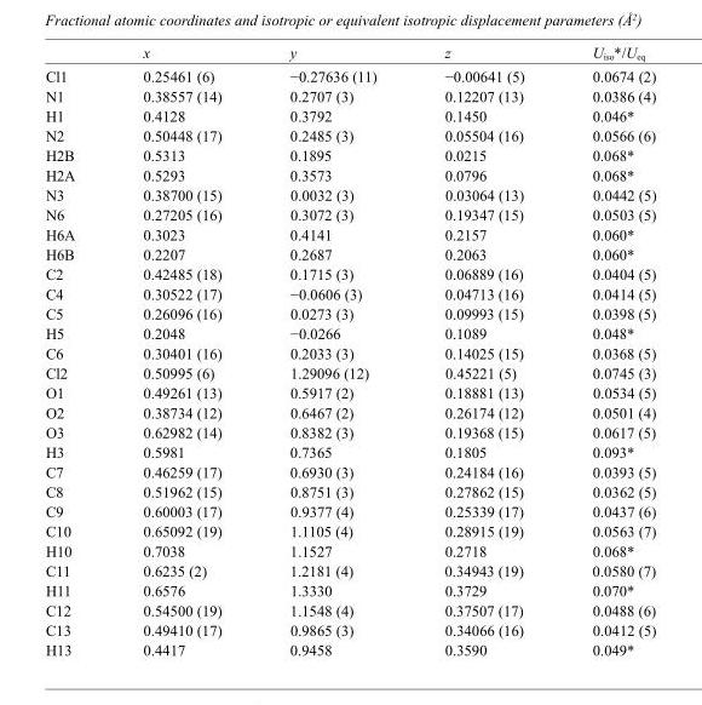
<table><thead><tr><td></td><td>x</td><td>y</td><td>z</td><td>U<sub>iso</sub>*/U<sub>eq</sub></td></tr></thead><tbody><tr><td>Cl1</td><td>0.25461 (6)</td><td>−0.27636 (11)</td><td>−0.00641 (5)</td><td>0.0674 (2)</td></tr><tr><td>N1</td><td>0.38557 (14)</td><td>0.2707 (3)</td><td>0.12207 (13)</td><td>0.0386 (4)</td></tr><tr><td>H1</td><td>0.4128</td><td>0.3792</td><td>0.1450</td><td>0.046*</td></tr><tr><td>N2</td><td>0.50448 (17)</td><td>0.2485 (3)</td><td>0.05504 (16)</td><td>0.0566 (6)</td></tr><tr><td>H2B</td><td>0.5313</td><td>0.1895</td><td>0.0215</td><td>0.068*</td></tr><tr><td>H2A</td><td>0.5293</td><td>0.3573</td><td>0.0796</td><td>0.068*</td></tr><tr><td>N3</td><td>0.38700 (15)</td><td>0.0032 (3)</td><td>0.03064 (13)</td><td>0.0442 (5)</td></tr><tr><td>N6</td><td>0.27205 (16)</td><td>0.3072 (3)</td><td>0.19347 (15)</td><td>0.0503 (5)</td></tr><tr><td>H6A</td><td>0.3023</td><td>0.4141</td><td>0.2157</td><td>0.060*</td></tr><tr><td>H6B</td><td>0.2207</td><td>0.2687</td><td>0.2063</td><td>0.060*</td></tr><tr><td>C2</td><td>0.42485 (18)</td><td>0.1715 (3)</td><td>0.06889 (16)</td><td>0.0404 (5)</td></tr><tr><td>C4</td><td>0.30522 (17)</td><td>−0.0606 (3)</td><td>0.04713 (16)</td><td>0.0414 (5)</td></tr><tr><td>C5</td><td>0.26096 (16)</td><td>0.0273 (3)</td><td>0.09993 (15)</td><td>0.0398 (5)</td></tr><tr><td>H5</td><td>0.2048</td><td>−0.0266</td><td>0.1089</td><td>0.048*</td></tr><tr><td>C6</td><td>0.30401 (16)</td><td>0.2033 (3)</td><td>0.14025 (15)</td><td>0.0368 (5)</td></tr><tr><td>Cl2</td><td>0.50995 (6)</td><td>1.29096 (12)</td><td>0.45221 (5)</td><td>0.0745 (3)</td></tr><tr><td>O1</td><td>0.49261 (13)</td><td>0.5917 (2)</td><td>0.18881 (13)</td><td>0.0534 (5)</td></tr><tr><td>O2</td><td>0.38734 (12)</td><td>0.6467 (2)</td><td>0.26174 (12)</td><td>0.0501 (4)</td></tr><tr><td>O3</td><td>0.62982 (14)</td><td>0.8382 (3)</td><td>0.19368 (15)</td><td>0.0617 (5)</td></tr><tr><td>H3</td><td>0.5981</td><td>0.7365</td><td>0.1805</td><td>0.093*</td></tr><tr><td>C7</td><td>0.46259 (17)</td><td>0.6930 (3)</td><td>0.24184 (16)</td><td>0.0393 (5)</td></tr><tr><td>C8</td><td>0.51962 (15)</td><td>0.8751 (3)</td><td>0.27862 (15)</td><td>0.0362 (5)</td></tr><tr><td>C9</td><td>0.60003 (17)</td><td>0.9377 (4)</td><td>0.25339 (17)</td><td>0.0437 (6)</td></tr><tr><td>C10</td><td>0.65092 (19)</td><td>1.1105 (4)</td><td>0.28915 (19)</td><td>0.0563 (7)</td></tr><tr><td>H10</td><td>0.7038</td><td>1.1527</td><td>0.2718</td><td>0.068*</td></tr><tr><td>C11</td><td>0.6235 (2)</td><td>1.2181 (4)</td><td>0.34943 (19)</td><td>0.0580 (7)</td></tr><tr><td>H11</td><td>0.6576</td><td>1.3330</td><td>0.3729</td><td>0.070*</td></tr><tr><td>C12</td><td>0.54500 (19)</td><td>1.1548 (4)</td><td>0.37507 (17)</td><td>0.0488 (6)</td></tr><tr><td>C13</td><td>0.49410 (17)</td><td>0.9865 (3)</td><td>0.34066 (16)</td><td>0.0412 (5)</td></tr><tr><td>H13</td><td>0.4417</td><td>0.9458</td><td>0.3590</td><td>0.049*</td></tr></tbody></table>